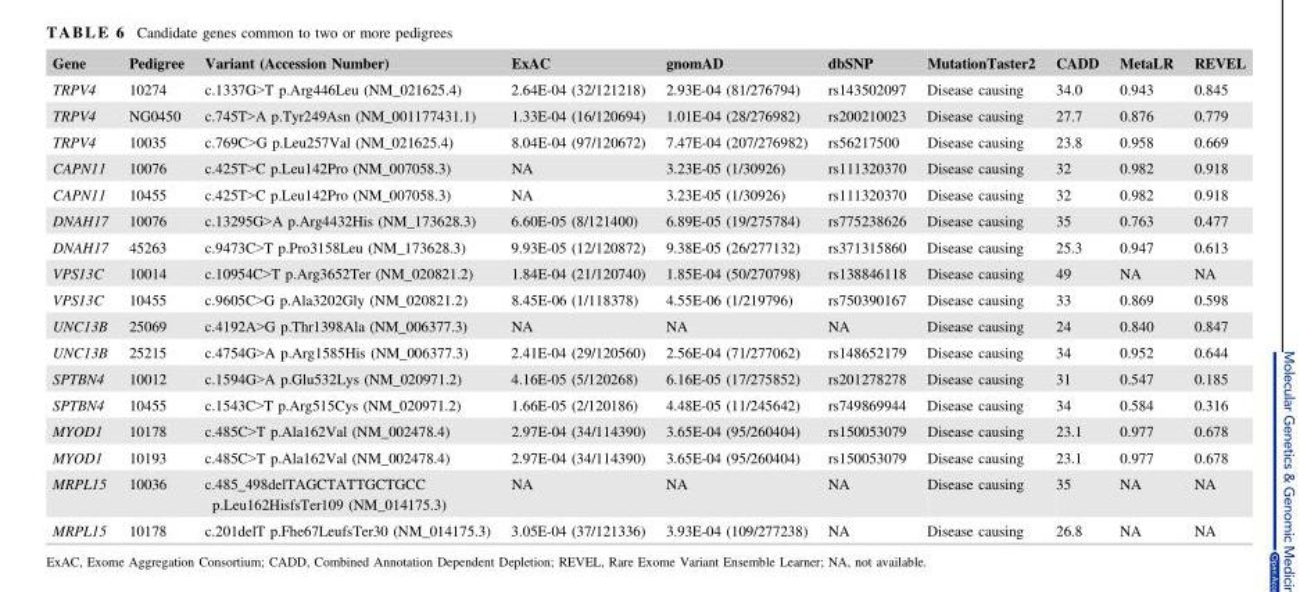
<table><thead><tr><td>Gene</td><td>Pedigree</td><td>Variant (Accession Number)</td><td>ExAC</td><td>gnomAD</td><td>dbSNP</td><td>MutationTaster2</td><td>CADD</td><td>MetaLR</td><td>REVEL</td></tr></thead><tbody><tr><td>TRPV4</td><td>10274</td><td>c.1337G&gt;T p.Arg446Leu (NM_021625.4)</td><td>2.64E-04 (32/121218)</td><td>2.93E-04 (81/276794)</td><td>rs143502097</td><td>Disease causing</td><td>34.0</td><td>0.943</td><td>0.845</td></tr><tr><td>TRPV4</td><td>NG0450</td><td>c.745T&gt;A p.Tyr249Asn (NM_001177431.1)</td><td>1.33E-04 (16/120694)</td><td>1.01E-04 (28/276982)</td><td>rs200210023</td><td>Disease causing</td><td>27.7</td><td>0.876</td><td>0.779</td></tr><tr><td>TRPV4</td><td>10035</td><td>c.769C&gt;G p.Leu257Val (NM_021625.4)</td><td>8.04E-04 (97/120672)</td><td>7.47E-04 (207/276982)</td><td>rs56217500</td><td>Disease causing</td><td>23.8</td><td>0.958</td><td>0.669</td></tr><tr><td>CAPN11</td><td>10076</td><td>c.425T&gt;C p.Leu142Pro (NM_007058.3)</td><td>NA</td><td>3.23E-05 (1/30926)</td><td>rs111320370</td><td>Disease causing</td><td>32</td><td>0.982</td><td>0.918</td></tr><tr><td>CAPN11</td><td>10455</td><td>c.425T&gt;C p.Leu142Pro (NM_007058.3)</td><td>NA</td><td>3.23E-05 (1/30926)</td><td>rs111320370</td><td>Disease causing</td><td>32</td><td>0.982</td><td>0.918</td></tr><tr><td>DNAH17</td><td>10076</td><td>c.13295G&gt;A p.Arg4432His (NM_173628.3)</td><td>6.60E-05 (8/121400)</td><td>6.89E-05 (19/275784)</td><td>rs775238626</td><td>Disease causing</td><td>35</td><td>0.763</td><td>0.477</td></tr><tr><td>DNAH17</td><td>45263</td><td>c.9473C&gt;T p.Pro3158Leu (NM_173628.3)</td><td>9.93E-05 (12/120872)</td><td>9.38E-05 (26/277132)</td><td>rs371315860</td><td>Disease causing</td><td>25.3</td><td>0.947</td><td>0.613</td></tr><tr><td>VPS13C</td><td>10014</td><td>c.10954C&gt;T p.Arg3652Ter (NM_020821.2)</td><td>1.84E-04 (21/120740)</td><td>1.85E-04 (50/270798)</td><td>rs138846118</td><td>Disease causing</td><td>49</td><td>NA</td><td>NA</td></tr><tr><td>VPS13C</td><td>10455</td><td>c.9605C&gt;G p.Ala3202Gly (NM_020821.2)</td><td>8.45E-06 (1/118378)</td><td>4.55E-06 (1/219796)</td><td>rs750390167</td><td>Disease causing</td><td>33</td><td>0.869</td><td>0.598</td></tr><tr><td>UNC13B</td><td>25069</td><td>c.4192A&gt;G p.Thr1398Ala (NM_006377.3)</td><td>NA</td><td>NA</td><td>NA</td><td>Disease causing</td><td>24</td><td>0.840</td><td>0.847</td></tr><tr><td>UNC13B</td><td>25215</td><td>c.4754G&gt;A p.Arg1585His (NM_006377.3)</td><td>2.41E-04 (29/120560)</td><td>2.56E-04 (71/277062)</td><td>rs148652179</td><td>Disease causing</td><td>34</td><td>0.952</td><td>0.644</td></tr><tr><td>SPTBN4</td><td>10012</td><td>c.1594G&gt;A p.Glu532Lys (NM_020971.2)</td><td>4.16E-05 (5/120268)</td><td>6.16E-05 (17/275852)</td><td>rs201278278</td><td>Disease causing</td><td>31</td><td>0.547</td><td>0.185</td></tr><tr><td>SPTBN4</td><td>10455</td><td>c.1543C&gt;T p.Arg515Cys (NM_020971.2)</td><td>1.66E-05 (2/120186)</td><td>4.48E-05 (11/245642)</td><td>rs749869944</td><td>Disease causing</td><td>34</td><td>0.584</td><td>0.316</td></tr><tr><td>MYOD1</td><td>10178</td><td>c.485C&gt;T p.Ala162Val (NM_002478.4)</td><td>2.97E-04 (34/114390)</td><td>3.65E-04 (95/260404)</td><td>rs150053079</td><td>Disease causing</td><td>23.1</td><td>0.977</td><td>0.678</td></tr><tr><td>MYOD1</td><td>10193</td><td>c.485C&gt;T p.Ala162Val (NM_002478.4)</td><td>2.97E-04 (34/114390)</td><td>3.65E-04 (95/260404)</td><td>rs150053079</td><td>Disease causing</td><td>23.1</td><td>0.977</td><td>0.678</td></tr><tr><td>MRPL15</td><td>10036</td><td>c.485_498delTAGCTATTGCTGCC p.Leu162HisfsTer109 (NM_014175.3)</td><td>NA</td><td>NA</td><td>NA</td><td>Disease causing</td><td>35</td><td>NA</td><td>NA</td></tr><tr><td>MRPL15</td><td>10178</td><td>c.201delT p.Fhe67LeufsTer30 (NM_014175.3)</td><td>3.05E-04 (37/121336)</td><td>3.93E-04 (109/277238)</td><td>NA</td><td>Disease causing</td><td>26.8</td><td>NA</td><td>NA</td></tr></tbody></table>